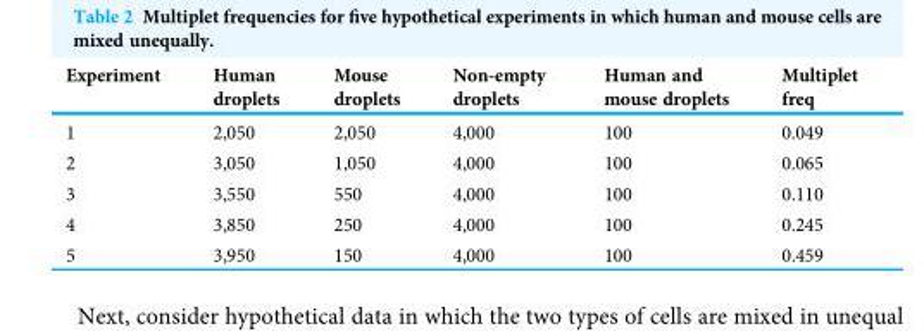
<table><thead><tr><td>Experiment</td><td>Human droplets</td><td>Mouse droplets</td><td>Non-empty droplets</td><td>Human and mouse droplets</td><td>Multiplet freq</td></tr></thead><tbody><tr><td>1</td><td>2,050</td><td>2,050</td><td>4,000</td><td>100</td><td>0.049</td></tr><tr><td>2</td><td>3,050</td><td>1,050</td><td>4,000</td><td>100</td><td>0.065</td></tr><tr><td>3</td><td>3,550</td><td>550</td><td>4,000</td><td>100</td><td>0.110</td></tr><tr><td>4</td><td>3,850</td><td>250</td><td>4,000</td><td>100</td><td>0.245</td></tr><tr><td>5</td><td>3,950</td><td>150</td><td>4,000</td><td>100</td><td>0.459</td></tr></tbody></table>